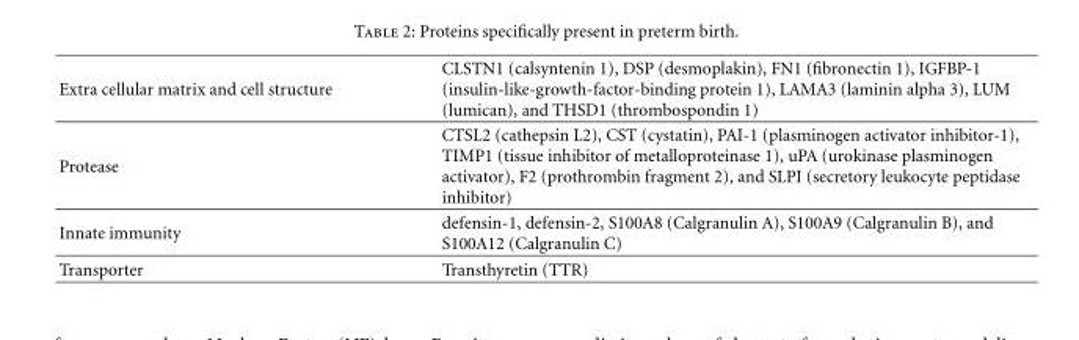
<table><thead><tr><td>Extra cellular matrix and cell structure</td><td>CLSTN1 (calsyntenin 1), DSP (desmoplakin), FN1 (fibronectin 1), IGFBP-1 (insulin-like-growth-factor-binding protein 1), LAMA3 (laminin alpha 3), LUM (lumican), and THSD1 (thrombospondin 1)</td></tr></thead><tbody><tr><td>Protease</td><td>CTSL2 (cathepsin L2), CST (cystatin), PAI-1 (plasminogen activator inhibitor-1), TIMP1 (tissue inhibitor of metalloproteinase 1), uPA (urokinase plasminogen activator), F2 (prothrombin fragment 2), and SLPI (secretory leukocyte peptidase inhibitor)</td></tr><tr><td>Innate immunity</td><td>defensin-1, defensin-2, S100A8 (Calgranulin A), S100A9 (Calgranulin B), and S100A12 (Calgranulin C)</td></tr><tr><td>Transporter</td><td>Transthyretin (TTR)</td></tr></tbody></table>